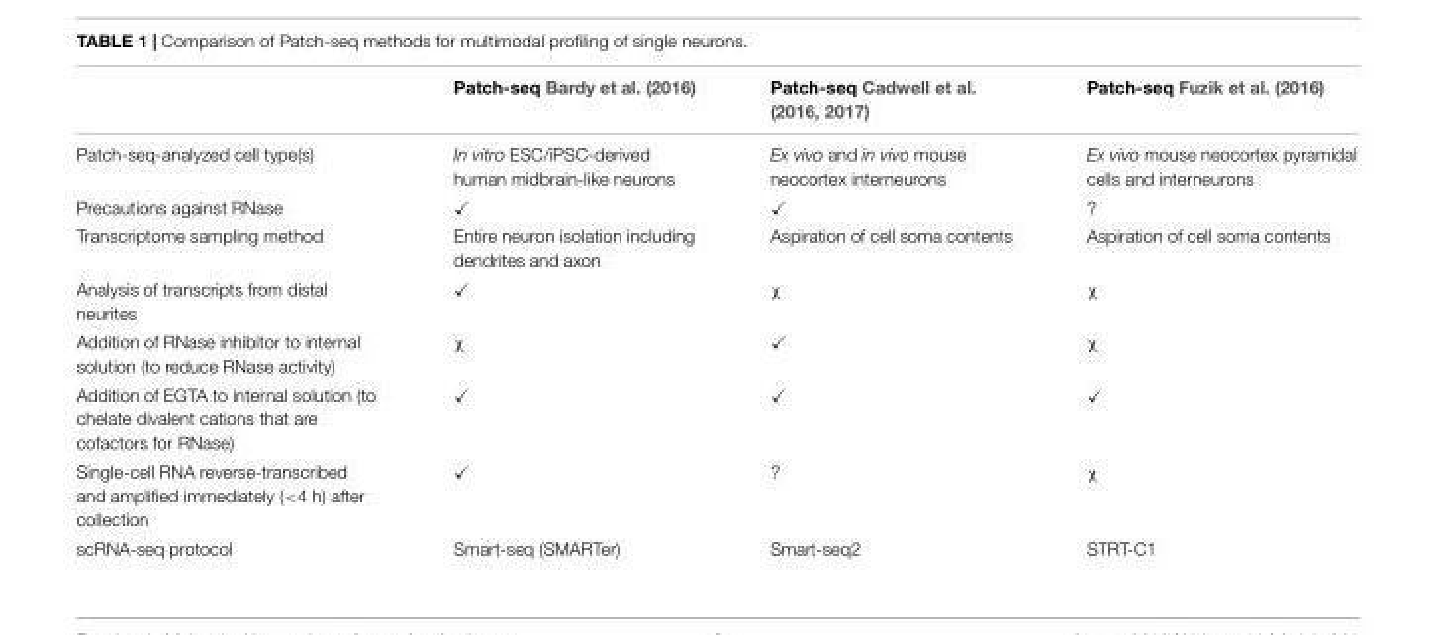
<table><thead><tr><td></td><td>Patch-seq Bardy et al. (2016)</td><td>Patch-seq Cadwell et al. (2016, 2017)</td><td>Patch-seq Fuzik et al. (2016)</td></tr></thead><tbody><tr><td>Patch-seq-analyzed cell type(s)</td><td>In vitro ESC/iPSC-derived human midbrain-like neurons</td><td>Ex vivo and in vivo mouse neocortex interneurons</td><td>Ex vivo mouse neocortex pyramidal cells and interneurons</td></tr><tr><td>Precautions against RNase</td><td>✓</td><td>✓</td><td>?</td></tr><tr><td>Transcriptome sampling method</td><td>Entire neuron isolation including dendrites and axon</td><td>Aspiration of cell soma contents</td><td>Aspiration of cell soma contents</td></tr><tr><td>Analysis of transcripts from distal neurites</td><td>✓</td><td>χ</td><td>χ</td></tr><tr><td>Addition of RNase inhibitor to internal solution (to reduce RNase activity)</td><td>χ</td><td>✓</td><td>χ</td></tr><tr><td>Addition of EGTA to internal solution (to chelate divalent cations that are cofactors for RNase)</td><td>✓</td><td>✓</td><td>✓</td></tr><tr><td>Single-cell RNA reverse-transcribed and amplified immediately (&lt;4 h) after collection</td><td>✓</td><td>?</td><td>χ</td></tr><tr><td>scRNA-seq protocol</td><td>Smart-seq (SMARTer)</td><td>Smart-seq2</td><td>STRT-C1</td></tr></tbody></table>